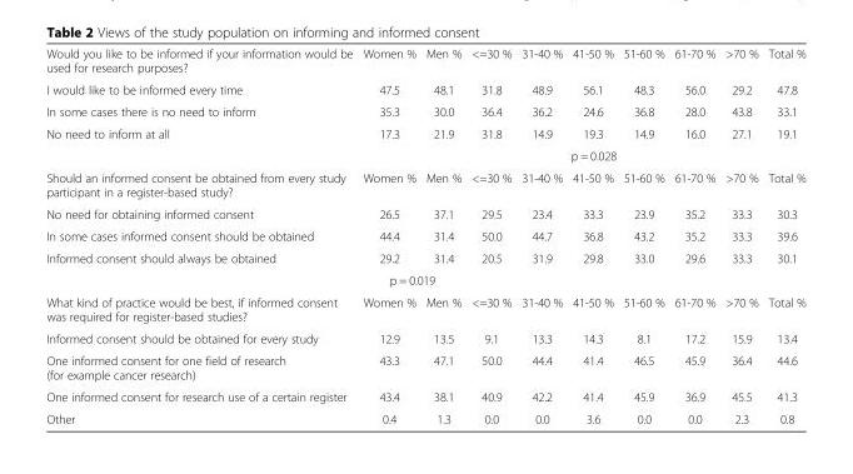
<table><tbody><tr><td>Would you like to be informed if your information would be used for research purposes?</td><td>Women %</td><td>Men %</td><td>&lt;=30 %</td><td>31-40 %</td><td>41-50 %</td><td>51-60 %</td><td>61-70 %</td><td>&gt;70 %</td><td>Total %</td></tr><tr><td>I would like to be informed every time</td><td>47.5</td><td>48.1</td><td>31.8</td><td>48.9</td><td>56.1</td><td>48.3</td><td>56.0</td><td>29.2</td><td>47.8</td></tr><tr><td>In some cases there is no need to inform</td><td>35.3</td><td>30.0</td><td>36.4</td><td>36.2</td><td>24.6</td><td>36.8</td><td>28.0</td><td>43.8</td><td>33.1</td></tr><tr><td rowspan="2">No need to inform at all</td><td>17.3</td><td>21.9</td><td>31.8</td><td>14.9</td><td>19.3</td><td>14.9</td><td>16.0</td><td>27.1</td><td>19.1</td></tr><tr><td></td><td></td><td colspan="5">p = 0.028</td><td></td><td></td></tr><tr><td>Should an informed consent be obtained from every study participant in a register-based study?</td><td>Women %</td><td>Men %</td><td>&lt;=30 %</td><td>31-40 %</td><td>41-50 %</td><td>51-60 %</td><td>61-70 %</td><td>&gt;70 %</td><td>Total %</td></tr><tr><td>No need for obtaining informed consent</td><td>26.5</td><td>37.1</td><td>29.5</td><td>23.4</td><td>33.3</td><td>23.9</td><td>35.2</td><td>33.3</td><td>30.3</td></tr><tr><td>In some cases informed consent should be obtained</td><td>44.4</td><td>31.4</td><td>50.0</td><td>44.7</td><td>36.8</td><td>43.2</td><td>35.2</td><td>33.3</td><td>39.6</td></tr><tr><td rowspan="2">Informed consent should always be obtained</td><td>29.2</td><td>31.4</td><td>20.5</td><td>31.9</td><td>29.8</td><td>33.0</td><td>29.6</td><td>33.3</td><td>30.1</td></tr><tr><td colspan="2">p = 0.019</td><td></td><td></td><td></td><td></td><td></td><td></td><td></td></tr><tr><td>What kind of practice would be best, if informed consent was required for register-based studies?</td><td>Women %</td><td>Men %</td><td>&lt;=30 %</td><td>31-40 %</td><td>41-50 %</td><td>51-60 %</td><td>61-70 %</td><td>&gt;70 %</td><td>Total %</td></tr><tr><td>Informed consent should be obtained for every study</td><td>12.9</td><td>13.5</td><td>9.1</td><td>13.3</td><td>14.3</td><td>8.1</td><td>17.2</td><td>15.9</td><td>13.4</td></tr><tr><td>One informed consent for one field of research (for example cancer research)</td><td>43.3</td><td>47.1</td><td>50.0</td><td>44.4</td><td>41.4</td><td>46.5</td><td>45.9</td><td>36.4</td><td>44.6</td></tr><tr><td>One informed consent for research use of a certain register</td><td>43.4</td><td>38.1</td><td>40.9</td><td>42.2</td><td>41.4</td><td>45.9</td><td>36.9</td><td>45.5</td><td>41.3</td></tr><tr><td>Other</td><td>0.4</td><td>1.3</td><td>0.0</td><td>0.0</td><td>3.6</td><td>0.0</td><td>0.0</td><td>2.3</td><td>0.8</td></tr></tbody></table>